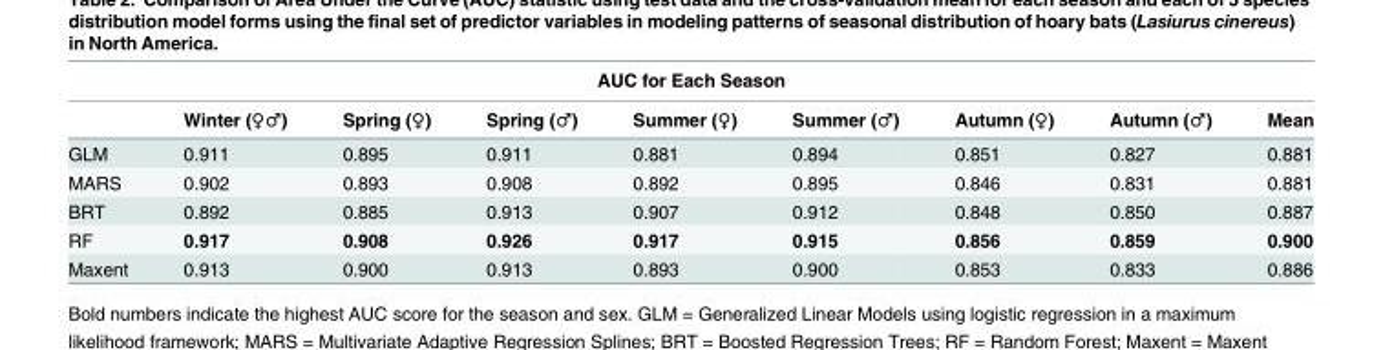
<table><thead><tr><td colspan="9">AUC for Each Season</td></tr><tr><td></td><td>Winter (♀♂)</td><td>Spring (♀)</td><td>Spring (♂)</td><td>Summer (♀)</td><td>Summer (♂)</td><td>Autumn (♀)</td><td>Autumn (♂)</td><td>Mean</td></tr></thead><tbody><tr><td>GLM</td><td>0.911</td><td>0.895</td><td>0.911</td><td>0.881</td><td>0.894</td><td>0.851</td><td>0.827</td><td>0.881</td></tr><tr><td>MARS</td><td>0.902</td><td>0.893</td><td>0.908</td><td>0.892</td><td>0.895</td><td>0.846</td><td>0.831</td><td>0.881</td></tr><tr><td>BRT</td><td>0.892</td><td>0.885</td><td>0.913</td><td>0.907</td><td>0.912</td><td>0.848</td><td>0.850</td><td>0.887</td></tr><tr><td>RF</td><td>0.917</td><td>0.908</td><td>0.926</td><td>0.917</td><td>0.915</td><td>0.856</td><td>0.859</td><td>0.900</td></tr><tr><td>Maxent</td><td>0.913</td><td>0.900</td><td>0.913</td><td>0.893</td><td>0.900</td><td>0.853</td><td>0.833</td><td>0.886</td></tr></tbody></table>